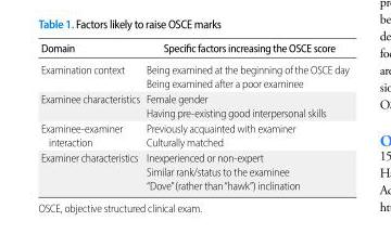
<table><thead><tr><td>Domain</td><td>Specific factors increasing the OSCE score</td></tr></thead><tbody><tr><td rowspan="2">Examination context</td><td>Being examined at the beginning of the OSCE day</td></tr><tr><td>Being examined after a poor examinee</td></tr><tr><td rowspan="2">Examinee characteristics</td><td>Female gender</td></tr><tr><td>Having pre-existing good interpersonal skills</td></tr><tr><td rowspan="2">Examinee-examiner interaction</td><td>Previously acquainted with examiner</td></tr><tr><td>Culturally matched</td></tr><tr><td rowspan="3">Examiner characteristics</td><td>Inexperienced or non-expert</td></tr><tr><td>Similar rank/status to the examinee</td></tr><tr><td>“Dove” (rather than “hawk”) inclination</td></tr></tbody></table>